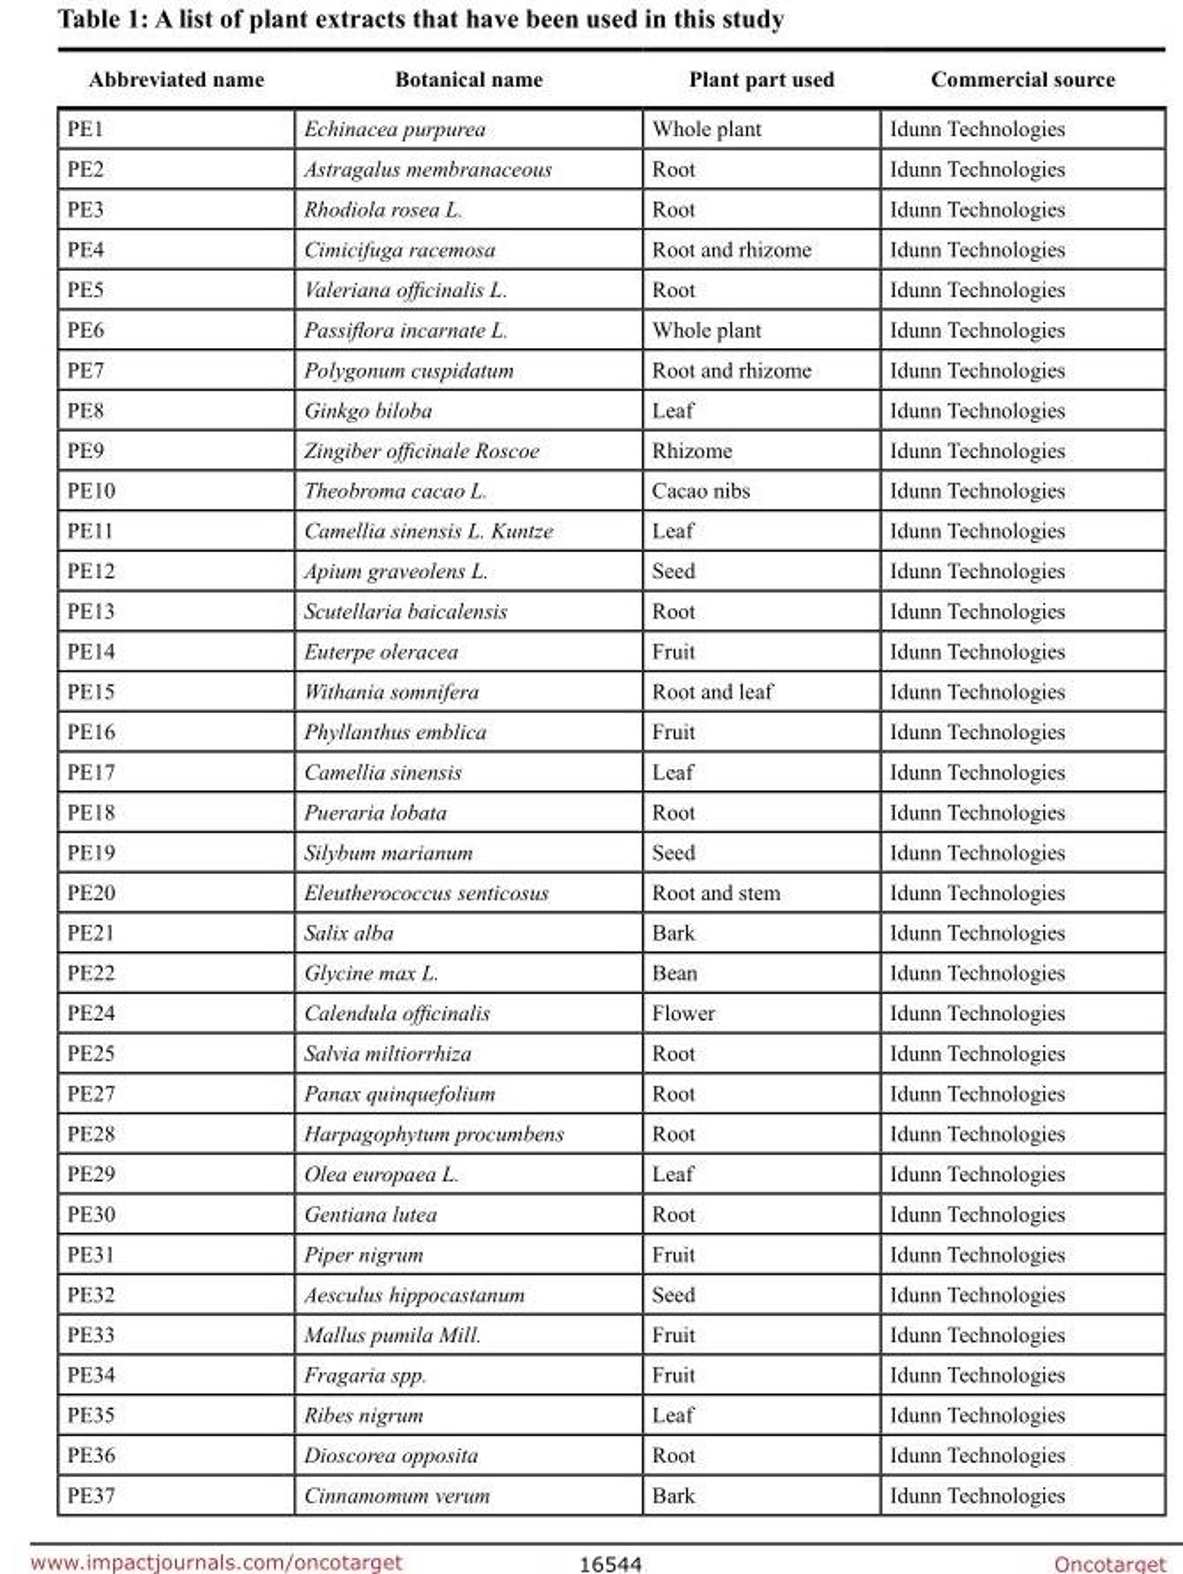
<table><thead><tr><td>Abbreviated name</td><td>Botanical name</td><td>Plant part used</td><td>Commercial source</td></tr></thead><tbody><tr><td>PE1</td><td>Echinacea purpurea</td><td>Whole plant</td><td>Idunn Technologies</td></tr><tr><td>PE2</td><td>Astragalus membranaceous</td><td>Root</td><td>Idunn Technologies</td></tr><tr><td>PE3</td><td>Rhodiola rosea L.</td><td>Root</td><td>Idunn Technologies</td></tr><tr><td>PE4</td><td>Cimicifuga racemosa</td><td>Root and rhizome</td><td>Idunn Technologies</td></tr><tr><td>PE5</td><td>Valeriana officinalis L.</td><td>Root</td><td>Idunn Technologies</td></tr><tr><td>PE6</td><td>Passiflora incarnate L.</td><td>Whole plant</td><td>Idunn Technologies</td></tr><tr><td>PE7</td><td>Polygonum cuspidatum</td><td>Root and rhizome</td><td>Idunn Technologies</td></tr><tr><td>PE8</td><td>Ginkgo biloba</td><td>Leaf</td><td>Idunn Technologies</td></tr><tr><td>PE9</td><td>Zingiber officinale Roscoe</td><td>Rhizome</td><td>Idunn Technologies</td></tr><tr><td>PE10</td><td>Theobroma cacao L.</td><td>Cacao nibs</td><td>Idunn Technologies</td></tr><tr><td>PE11</td><td>Camellia sinensis L. Kuntze</td><td>Leaf</td><td>Idunn Technologies</td></tr><tr><td>PE12</td><td>Apium graveolens L.</td><td>Seed</td><td>Idunn Technologies</td></tr><tr><td>PE13</td><td>Scutellaria baicalensis</td><td>Root</td><td>Idunn Technologies</td></tr><tr><td>PE14</td><td>Euterpe oleracea</td><td>Fruit</td><td>Idunn Technologies</td></tr><tr><td>PE15</td><td>Withania somnifera</td><td>Root and leaf</td><td>Idunn Technologies</td></tr><tr><td>PE16</td><td>Phyllanthus emblica</td><td>Fruit</td><td>Idunn Technologies</td></tr><tr><td>PE17</td><td>Camellia sinensis</td><td>Leaf</td><td>Idunn Technologies</td></tr><tr><td>PE18</td><td>Pueraria lobata</td><td>Root</td><td>Idunn Technologies</td></tr><tr><td>PE19</td><td>Silybum marianum</td><td>Seed</td><td>Idunn Technologies</td></tr><tr><td>PE20</td><td>Eleutherococcus senticosus</td><td>Root and stem</td><td>Idunn Technologies</td></tr><tr><td>PE21</td><td>Salix alba</td><td>Bark</td><td>Idunn Technologies</td></tr><tr><td>PE22</td><td>Glycine max L.</td><td>Bean</td><td>Idunn Technologies</td></tr><tr><td>PE24</td><td>Calendula officinalis</td><td>Flower</td><td>Idunn Technologies</td></tr><tr><td>PE25</td><td>Salvia miltiorrhiza</td><td>Root</td><td>Idunn Technologies</td></tr><tr><td>PE27</td><td>Panax quinquefolium</td><td>Root</td><td>Idunn Technologies</td></tr><tr><td>PE28</td><td>Harpagophytum procumbens</td><td>Root</td><td>Idunn Technologies</td></tr><tr><td>PE29</td><td>Olea europaea L.</td><td>Leaf</td><td>Idunn Technologies</td></tr><tr><td>PE30</td><td>Gentiana lutea</td><td>Root</td><td>Idunn Technologies</td></tr><tr><td>PE31</td><td>Piper nigrum</td><td>Fruit</td><td>Idunn Technologies</td></tr><tr><td>PE32</td><td>Aesculus hippocastanum</td><td>Seed</td><td>Idunn Technologies</td></tr><tr><td>PE33</td><td>Mallus pumila Mill.</td><td>Fruit</td><td>Idunn Technologies</td></tr><tr><td>PE34</td><td>Fragaria spp.</td><td>Fruit</td><td>Idunn Technologies</td></tr><tr><td>PE35</td><td>Ribes nigrum</td><td>Leaf</td><td>Idunn Technologies</td></tr><tr><td>PE36</td><td>Dioscorea opposita</td><td>Root</td><td>Idunn Technologies</td></tr><tr><td>PE37</td><td>Cinnamomum verum</td><td>Bark</td><td>Idunn Technologies</td></tr></tbody></table>